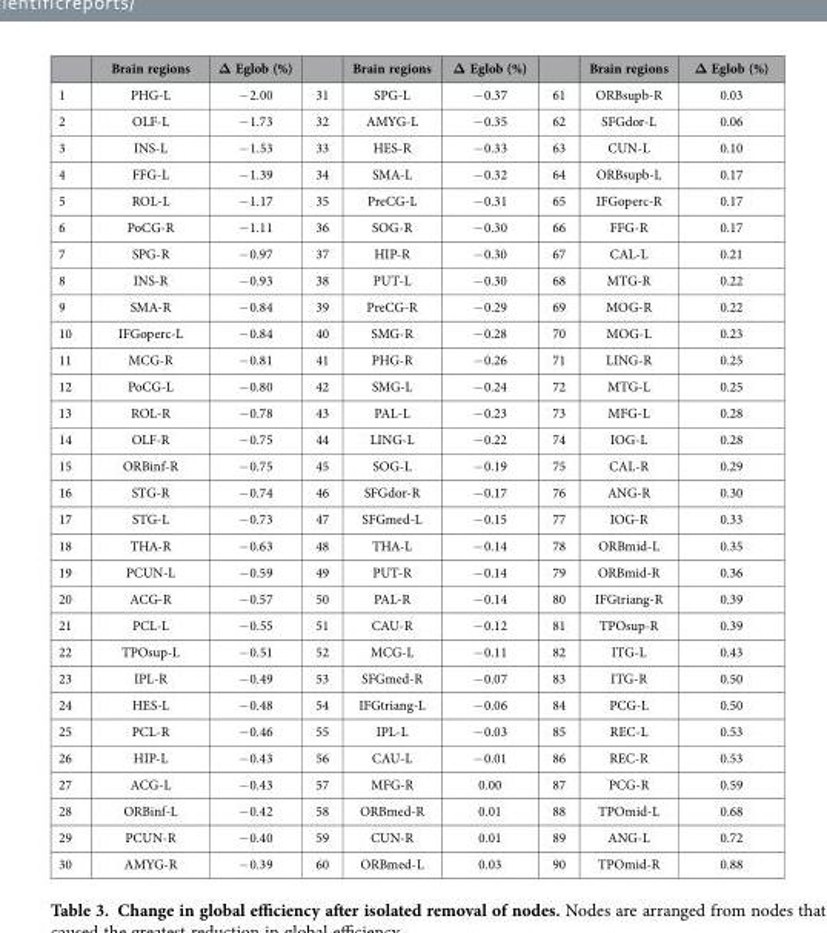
<table><thead><tr><td></td><td>Brain regions</td><td>Δ Eglob (%)</td><td></td><td>Brain regions</td><td>Δ Eglob (%)</td><td></td><td>Brain regions</td><td>Δ Eglob (%)</td></tr></thead><tbody><tr><td>1</td><td>PHG-L</td><td>− 2.00</td><td>31</td><td>SPG-L</td><td>− 0.37</td><td>61</td><td>ORBsupb-R</td><td>0.03</td></tr><tr><td>2</td><td>OLF-L</td><td>− 1.73</td><td>32</td><td>AMYG-L</td><td>− 0.35</td><td>62</td><td>SFGdor-L</td><td>0.06</td></tr><tr><td>3</td><td>INS-L</td><td>− 1.53</td><td>33</td><td>HES-R</td><td>− 0.33</td><td>63</td><td>CUN-L</td><td>0.10</td></tr><tr><td>4</td><td>FFG-L</td><td>− 1.39</td><td>34</td><td>SMA-L</td><td>− 0.32</td><td>64</td><td>ORBsupb-L</td><td>0.17</td></tr><tr><td>5</td><td>ROL-L</td><td>− 1.17</td><td>35</td><td>PreCG-L</td><td>− 0.31</td><td>65</td><td>IFGoperc-R</td><td>0.17</td></tr><tr><td>6</td><td>PoCG-R</td><td>− 1.11</td><td>36</td><td>SOG-R</td><td>− 0.30</td><td>66</td><td>FFG-R</td><td>0.17</td></tr><tr><td>7</td><td>SPG-R</td><td>− 0.97</td><td>37</td><td>HIP-R</td><td>− 0.30</td><td>67</td><td>CAL-L</td><td>0.21</td></tr><tr><td>8</td><td>INS-R</td><td>− 0.93</td><td>38</td><td>PUT-L</td><td>− 0.30</td><td>68</td><td>MTG-R</td><td>0.22</td></tr><tr><td>9</td><td>SMA-R</td><td>− 0.84</td><td>39</td><td>PreCG-R</td><td>− 0.29</td><td>69</td><td>MOG-R</td><td>0.22</td></tr><tr><td>10</td><td>IFGoperc-L</td><td>− 0.84</td><td>40</td><td>SMG-R</td><td>− 0.28</td><td>70</td><td>MOG-L</td><td>0.23</td></tr><tr><td>11</td><td>MCG-R</td><td>− 0.81</td><td>41</td><td>PHG-R</td><td>− 0.26</td><td>71</td><td>LING-R</td><td>0.25</td></tr><tr><td>12</td><td>PoCG-L</td><td>− 0.80</td><td>42</td><td>SMG-L</td><td>− 0.24</td><td>72</td><td>MTG-L</td><td>0.25</td></tr><tr><td>13</td><td>ROL-R</td><td>− 0.78</td><td>43</td><td>PAL-L</td><td>− 0.23</td><td>73</td><td>MFG-L</td><td>0.28</td></tr><tr><td>14</td><td>OLF-R</td><td>− 0.75</td><td>44</td><td>LING-L</td><td>− 0.22</td><td>74</td><td>IOG-L</td><td>0.28</td></tr><tr><td>15</td><td>ORBinf-R</td><td>− 0.75</td><td>45</td><td>SOG-L</td><td>− 0.19</td><td>75</td><td>CAL-R</td><td>0.29</td></tr><tr><td>16</td><td>STG-R</td><td>− 0.74</td><td>46</td><td>SFGdor-R</td><td>− 0.17</td><td>76</td><td>ANG-R</td><td>0.30</td></tr><tr><td>17</td><td>STG-L</td><td>− 0.73</td><td>47</td><td>SFGmed-L</td><td>− 0.15</td><td>77</td><td>IOG-R</td><td>0.33</td></tr><tr><td>18</td><td>THA-R</td><td>− 0.63</td><td>48</td><td>THA-L</td><td>− 0.14</td><td>78</td><td>ORBmid-L</td><td>0.35</td></tr><tr><td>19</td><td>PCUN-L</td><td>− 0.59</td><td>49</td><td>PUT-R</td><td>− 0.14</td><td>79</td><td>ORBmid-R</td><td>0.36</td></tr><tr><td>20</td><td>ACG-R</td><td>− 0.57</td><td>50</td><td>PAL-R</td><td>− 0.14</td><td>80</td><td>IFGtriang-R</td><td>0.39</td></tr><tr><td>21</td><td>PCL-L</td><td>− 0.55</td><td>51</td><td>CAU-R</td><td>− 0.12</td><td>81</td><td>TPOsup-R</td><td>0.39</td></tr><tr><td>22</td><td>TPOsup-L</td><td>− 0.51</td><td>52</td><td>MCG-L</td><td>− 0.11</td><td>82</td><td>ITG-L</td><td>0.43</td></tr><tr><td>23</td><td>IPL-R</td><td>− 0.49</td><td>53</td><td>SFGmed-R</td><td>− 0.07</td><td>83</td><td>ITG-R</td><td>0.50</td></tr><tr><td>24</td><td>HES-L</td><td>− 0.48</td><td>54</td><td>IFGtriang-L</td><td>− 0.06</td><td>84</td><td>PCG-L</td><td>0.50</td></tr><tr><td>25</td><td>PCL-R</td><td>− 0.46</td><td>55</td><td>IPL-L</td><td>− 0.03</td><td>85</td><td>REC-L</td><td>0.53</td></tr><tr><td>26</td><td>HIP-L</td><td>− 0.43</td><td>56</td><td>CAU-L</td><td>− 0.01</td><td>86</td><td>REC-R</td><td>0.53</td></tr><tr><td>27</td><td>ACG-L</td><td>− 0.43</td><td>57</td><td>MFG-R</td><td>0.00</td><td>87</td><td>PCG-R</td><td>0.59</td></tr><tr><td>28</td><td>ORBinf-L</td><td>− 0.42</td><td>58</td><td>ORBmed-R</td><td>0.01</td><td>88</td><td>TPOmid-L</td><td>0.68</td></tr><tr><td>29</td><td>PCUN-R</td><td>− 0.40</td><td>59</td><td>CUN-R</td><td>0.01</td><td>89</td><td>ANG-L</td><td>0.72</td></tr><tr><td>30</td><td>AMYG-R</td><td>− 0.39</td><td>60</td><td>ORBmed-L</td><td>0.03</td><td>90</td><td>TPOmid-R</td><td>0.88</td></tr></tbody></table>